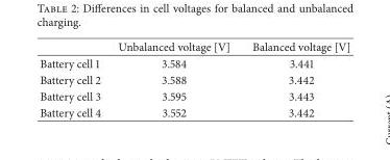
<table><thead><tr><td></td><td>Unbalanced voltage [V]</td><td>Balanced voltage [V]</td></tr></thead><tbody><tr><td>Battery cell 1</td><td>3.584</td><td>3.441</td></tr><tr><td>Battery cell 2</td><td>3.588</td><td>3.442</td></tr><tr><td>Battery cell 3</td><td>3.595</td><td>3.443</td></tr><tr><td>Battery cell 4</td><td>3.552</td><td>3.442</td></tr></tbody></table>